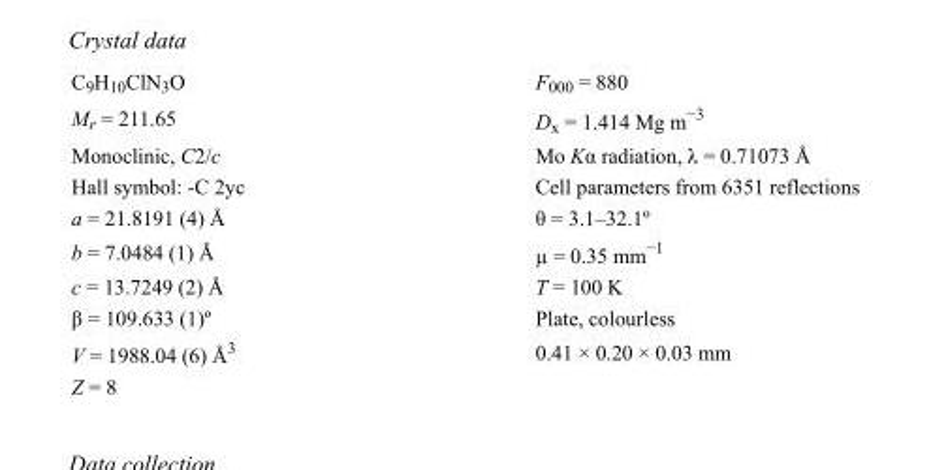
<table><tbody><tr><td>C<sub>9</sub>H<sub>10</sub>ClN<sub>3</sub>O</td><td>F000 = 880</td></tr><tr><td>M<sub>r</sub> = 211.65</td><td>D<sub>x</sub> = 1.414 Mg m<sup>−3</sup></td></tr><tr><td>Monoclinic, C2/c</td><td>Mo Kα radiation, λ = 0.71073 Å</td></tr><tr><td>Hall symbol: -C 2yc</td><td>Cell parameters from 6351 reflections</td></tr><tr><td>a = 21.8191 (4) Å</td><td>θ = 3.1–32.1º</td></tr><tr><td>b = 7.0484 (1) Å</td><td>µ = 0.35 mm<sup>−1</sup></td></tr><tr><td>c = 13.7249 (2) Å</td><td>T = 100 K</td></tr><tr><td>β = 109.633 (1)º</td><td>Plate, colourless</td></tr><tr><td>V = 1988.04 (6) Å<sup>3</sup></td><td>0.41 × 0.20 × 0.03 mm</td></tr><tr><td>Z = 8</td><td></td></tr></tbody></table>